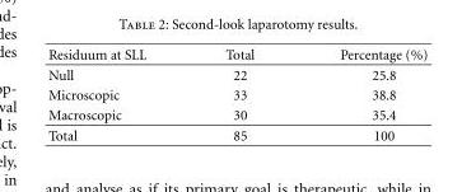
<table><thead><tr><td>Residuum at SLL</td><td>Total</td><td>Percentage (%)</td></tr></thead><tbody><tr><td>Null</td><td>22</td><td>25.8</td></tr><tr><td>Microscopic</td><td>33</td><td>38.8</td></tr><tr><td>Macroscopic</td><td>30</td><td>35.4</td></tr><tr><td>Total</td><td>85</td><td>100</td></tr></tbody></table>